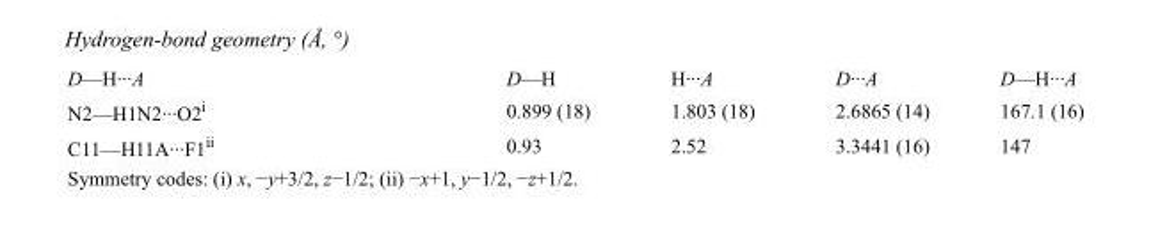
<table><tbody><tr><td>D—H···A</td><td>D—H</td><td>H···A</td><td>D···A</td><td>D—H···A</td></tr><tr><td>N2—H1N2···O2<sup>i</sup></td><td>0.899 (18)</td><td>1.803 (18)</td><td>2.6865 (14)</td><td>167.1 (16)</td></tr><tr><td>C11—H11A···F1<sup>ii</sup></td><td>0.93</td><td>2.52</td><td>3.3441 (16)</td><td>147</td></tr></tbody></table>